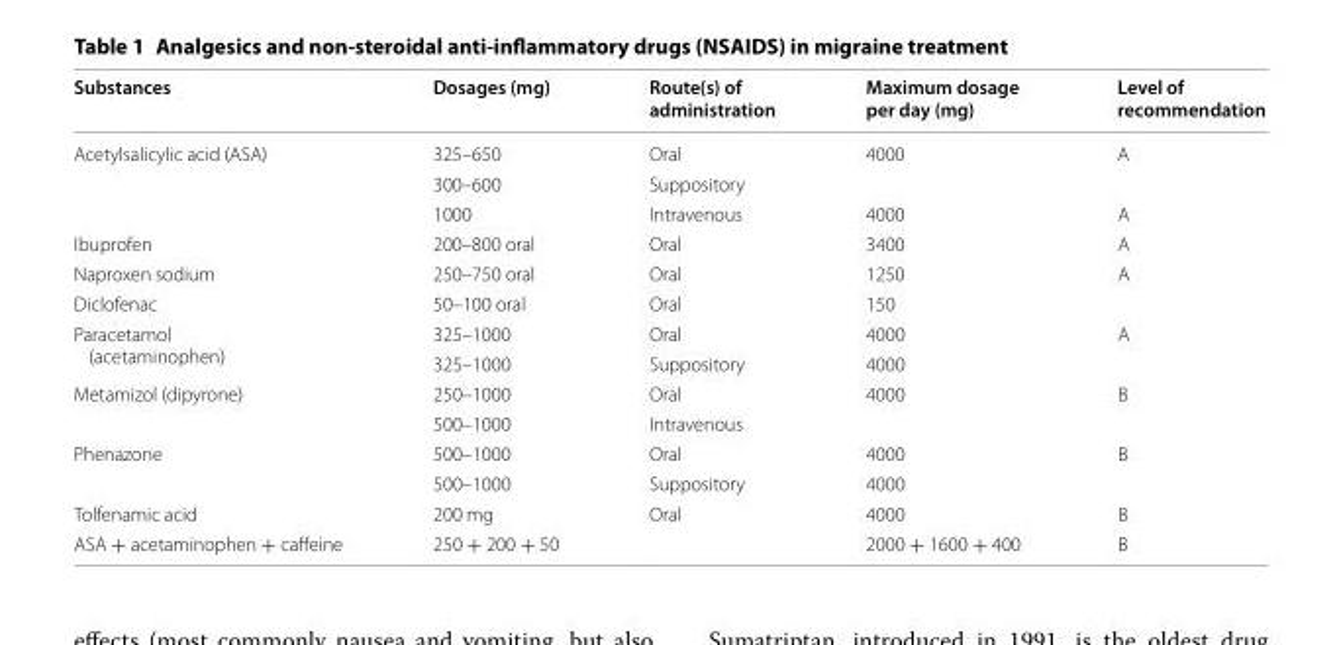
<table><thead><tr><td>Substances</td><td>Dosages (mg)</td><td>Route(s) of administration</td><td>Maximum dosage per day (mg)</td><td>Level of recommendation</td></tr></thead><tbody><tr><td rowspan="3">Acetylsalicylic acid (ASA)</td><td>325–650</td><td>Oral</td><td>4000</td><td>A</td></tr><tr><td>300–600</td><td>Suppository</td><td></td><td></td></tr><tr><td>1000</td><td>Intravenous</td><td>4000</td><td>A</td></tr><tr><td>Ibuprofen</td><td>200–800 oral</td><td>Oral</td><td>3400</td><td>A</td></tr><tr><td>Naproxen sodium</td><td>250–750 oral</td><td>Oral</td><td>1250</td><td>A</td></tr><tr><td>Diclofenac</td><td>50–100 oral</td><td>Oral</td><td>150</td><td></td></tr><tr><td rowspan="2">Paracetamol (acetaminophen)</td><td>325–1000</td><td>Oral</td><td>4000</td><td>A</td></tr><tr><td>325–1000</td><td>Suppository</td><td>4000</td><td></td></tr><tr><td rowspan="2">Metamizol (dipyrone)</td><td>250–1000</td><td>Oral</td><td>4000</td><td>B</td></tr><tr><td>500–1000</td><td>Intravenous</td><td></td><td></td></tr><tr><td rowspan="2">Phenazone</td><td>500–1000</td><td>Oral</td><td>4000</td><td>B</td></tr><tr><td>500–1000</td><td>Suppository</td><td>4000</td><td></td></tr><tr><td>Tolfenamic acid</td><td>200 mg</td><td>Oral</td><td>4000</td><td>B</td></tr><tr><td>ASA + acetaminophen + caffeine</td><td>250 + 200 + 50</td><td></td><td>2000 + 1600 + 400</td><td>B</td></tr></tbody></table>